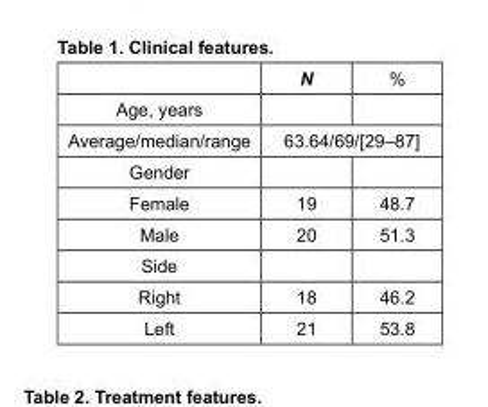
<table><thead><tr><td></td><td>N</td><td>%</td></tr></thead><tbody><tr><td colspan="3">Age, years</td></tr><tr><td>Average/median/range</td><td colspan="2">63.64/69/[29–87]</td></tr><tr><td colspan="3">Gender</td></tr><tr><td>Female</td><td>19</td><td>48.7</td></tr><tr><td>Male</td><td>20</td><td>51.3</td></tr><tr><td colspan="3">Side</td></tr><tr><td>Right</td><td>18</td><td>46.2</td></tr><tr><td>Left</td><td>21</td><td>53.8</td></tr></tbody></table>